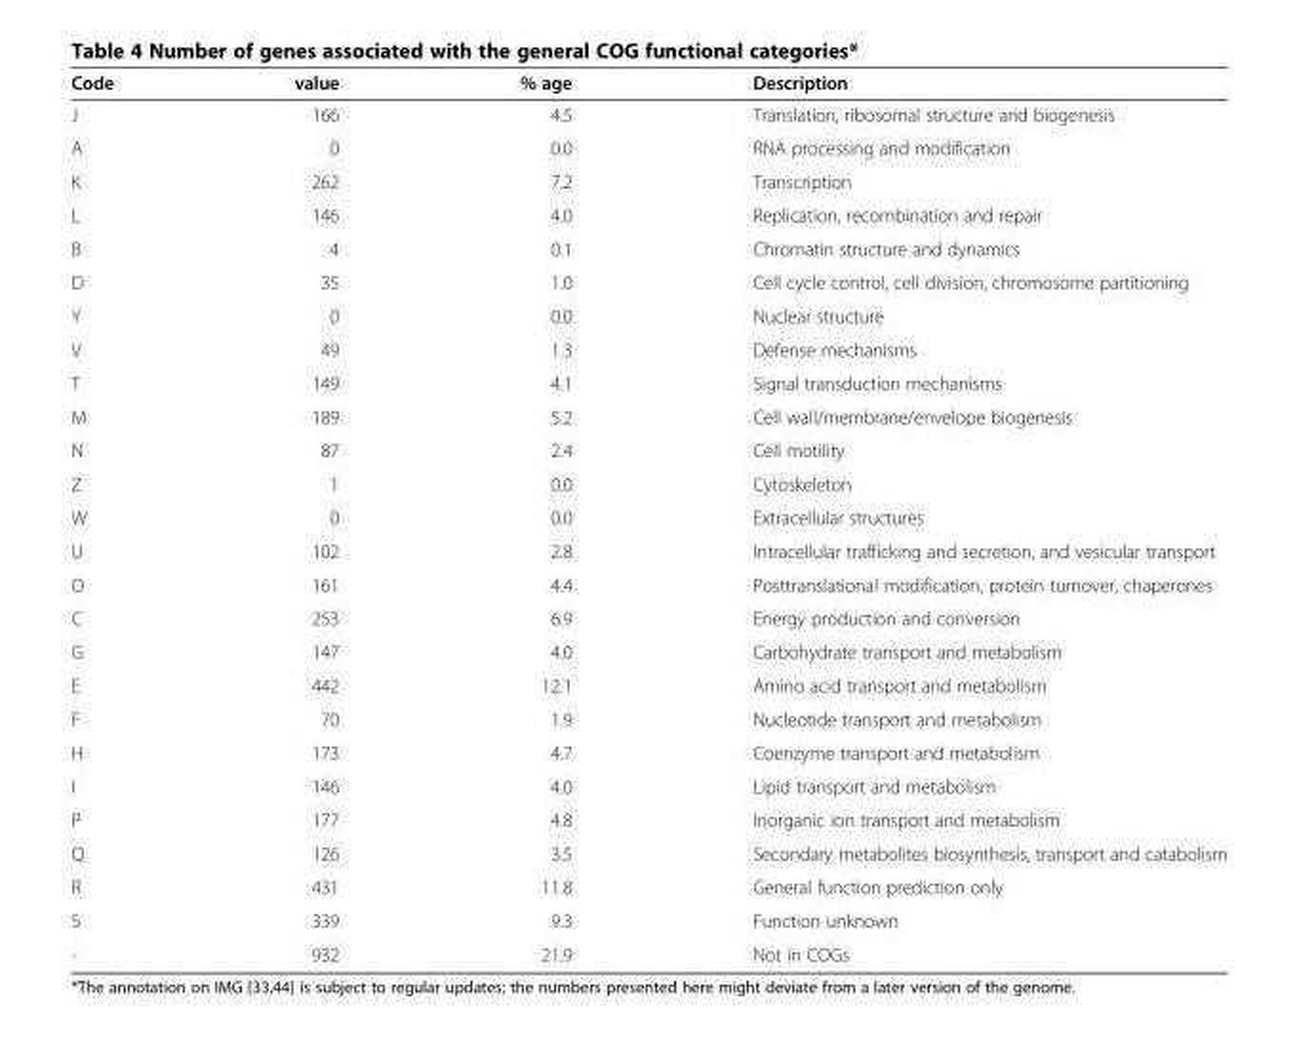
<table><thead><tr><td>Code</td><td>value</td><td>% age</td><td>Description</td></tr></thead><tbody><tr><td>J</td><td>166</td><td>4.5</td><td>Translation, ribosomal structure and biogenesis</td></tr><tr><td>A</td><td>0</td><td>0.0</td><td>RNA processing and modification</td></tr><tr><td>K</td><td>262</td><td>7.2</td><td>Transcription</td></tr><tr><td>L</td><td>146</td><td>4.0</td><td>Replication, recombination and repair</td></tr><tr><td>B</td><td>4</td><td>0.1</td><td>Chromatin structure and dynamics</td></tr><tr><td>D</td><td>35</td><td>1.0</td><td>Cell cycle control, cell division, chromosome partitioning</td></tr><tr><td>Y</td><td>0</td><td>0.0</td><td>Nuclear structure</td></tr><tr><td>V</td><td>49</td><td>1.3</td><td>Defense mechanisms</td></tr><tr><td>T</td><td>149</td><td>4.1</td><td>Signal transduction mechanisms</td></tr><tr><td>M</td><td>189</td><td>5.2</td><td>Cell wall/membrane/envelope biogenesis</td></tr><tr><td>N</td><td>87</td><td>2.4</td><td>Cell motility</td></tr><tr><td>Z</td><td>1</td><td>0.0</td><td>Cytoskeleton</td></tr><tr><td>W</td><td>0</td><td>0.0</td><td>Extracellular structures</td></tr><tr><td>U</td><td>102</td><td>2.8</td><td>Intracellular trafficking and secretion, and vesicular transport</td></tr><tr><td>O</td><td>161</td><td>4.4</td><td>Posttranslational modification, protein turnover, chaperones</td></tr><tr><td>C</td><td>253</td><td>6.9</td><td>Energy production and conversion</td></tr><tr><td>G</td><td>147</td><td>4.0</td><td>Carbohydrate transport and metabolism</td></tr><tr><td>E</td><td>442</td><td>12.1</td><td>Amino acid transport and metabolism</td></tr><tr><td>F</td><td>70</td><td>1.9</td><td>Nucleotide transport and metabolism</td></tr><tr><td>H</td><td>173</td><td>4.7</td><td>Coenzyme transport and metabolism</td></tr><tr><td>I</td><td>146</td><td>4.0</td><td>Lipid transport and metabolism</td></tr><tr><td>P</td><td>177</td><td>4.8</td><td>Inorganic ion transport and metabolism</td></tr><tr><td>Q</td><td>126</td><td>3.5</td><td>Secondary metabolites biosynthesis, transport and catabolism</td></tr><tr><td>R</td><td>431</td><td>11.8</td><td>General function prediction only</td></tr><tr><td>S</td><td>339</td><td>9.3</td><td>Function unknown</td></tr><tr><td>-</td><td>932</td><td>21.9</td><td>Not in COGs</td></tr></tbody></table>